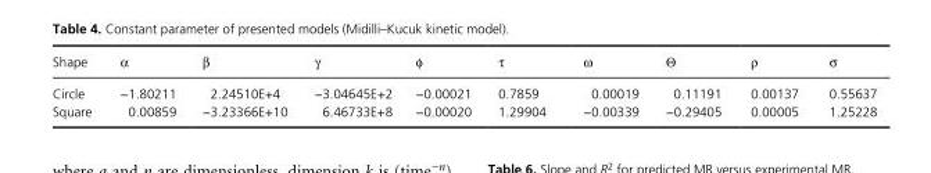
<table><thead><tr><td>Shape</td><td>α</td><td>β</td><td>γ</td><td>φ</td><td>τ</td><td>ω</td><td>Θ</td><td>ρ</td><td>σ</td></tr></thead><tbody><tr><td>Circle</td><td>−1.80211</td><td>2.24510E+4</td><td>−3.04645E+2</td><td>−0.00021</td><td>0.7859</td><td>0.00019</td><td>0.11191</td><td>0.00137</td><td>0.55637</td></tr><tr><td>Square</td><td>0.00859</td><td>−3.23366E+10</td><td>6.46733E+8</td><td>−0.00020</td><td>1.29904</td><td>−0.00339</td><td>−0.29405</td><td>0.00005</td><td>1.25228</td></tr></tbody></table>